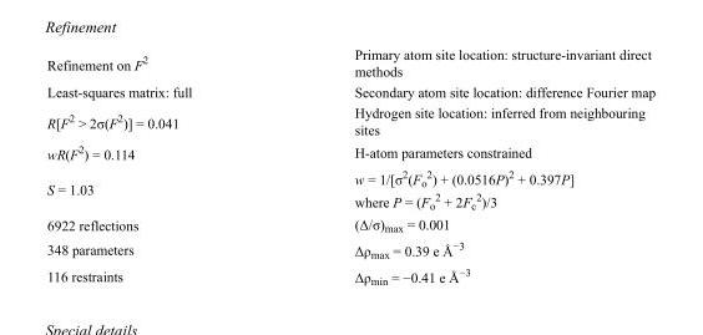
<table><tbody><tr><td>Refinement on F<sup>2</sup></td><td>Primary atom site location: structure-invariant direct methods</td></tr><tr><td>Least-squares matrix: full</td><td>Secondary atom site location: difference Fourier map</td></tr><tr><td>R[F<sup>2</sup> &gt; 2σ(F<sup>2</sup>)] = 0.041</td><td>Hydrogen site location: inferred from neighbouring sites</td></tr><tr><td>wR(F<sup>2</sup>) = 0.114</td><td>H-atom parameters constrained</td></tr><tr><td>S = 1.03</td><td>w = 1/[σ<sup>2</sup>(F<sub>o</sub> <sup>2</sup>) + (0.0516P)<sup>2</sup> + 0.397P] where P = (F<sub>o</sub> <sup>2</sup> + 2F<sub>c</sub> <sup>2</sup>)/3</td></tr><tr><td>6922 reflections</td><td>(Δ/σ)<sub>max</sub> = 0.001</td></tr><tr><td>348 parameters</td><td>Δρ<sub>max</sub> = 0.39 e Å<sup>−3</sup></td></tr><tr><td>116 restraints</td><td>Δρ<sub>min</sub> = −0.41 e Å<sup>−3</sup></td></tr></tbody></table>